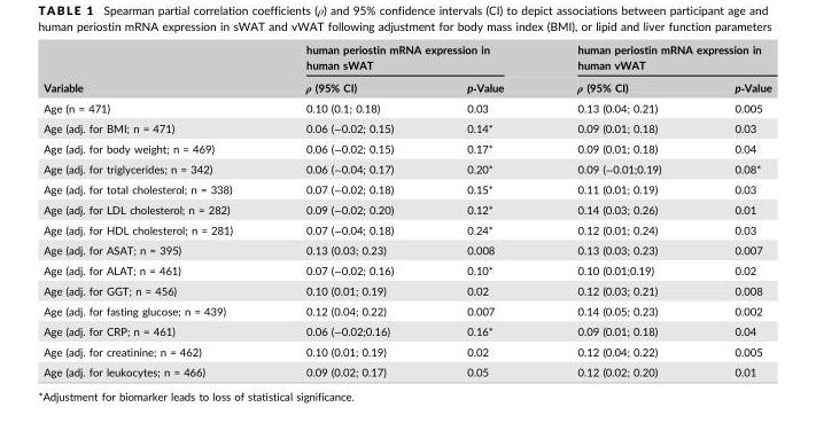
<table><thead><tr><td rowspan="2">Variable</td><td colspan="2">human periostin mRNA expression in human sWAT</td><td colspan="2">human periostin mRNA expression in human vWAT</td></tr><tr><td>ρ (95% CI)</td><td>p‐Value</td><td>ρ (95% CI)</td><td>p‐Value</td></tr></thead><tbody><tr><td>Age (n = 471)</td><td>0.10 (0.1; 0.18)</td><td>0.03</td><td>0.13 (0.04; 0.21)</td><td>0.005</td></tr><tr><td>Age (adj. for BMI; n = 471)</td><td>0.06 (−0.02; 0.15)</td><td>0.14*</td><td>0.09 (0.01; 0.18)</td><td>0.03</td></tr><tr><td>Age (adj. for body weight; n = 469)</td><td>0.06 (−0.02; 0.15)</td><td>0.17*</td><td>0.09 (0.01; 0.18)</td><td>0.04</td></tr><tr><td>Age (adj. for triglycerides; n = 342)</td><td>0.06 (−0.04; 0.17)</td><td>0.20*</td><td>0.09 (−0.01;0.19)</td><td>0.08*</td></tr><tr><td>Age (adj. for total cholesterol; n = 338)</td><td>0.07 (−0.02; 0.18)</td><td>0.15*</td><td>0.11 (0.01; 0.19)</td><td>0.03</td></tr><tr><td>Age (adj. for LDL cholesterol; n = 282)</td><td>0.09 (−0.02; 0.20)</td><td>0.12*</td><td>0.14 (0.03; 0.26)</td><td>0.01</td></tr><tr><td>Age (adj. for HDL cholesterol; n = 281)</td><td>0.07 (−0.04; 0.18)</td><td>0.24*</td><td>0.12 (0.01; 0.24)</td><td>0.03</td></tr><tr><td>Age (adj. for ASAT; n = 395)</td><td>0.13 (0.03; 0.23)</td><td>0.008</td><td>0.13 (0.03; 0.23)</td><td>0.007</td></tr><tr><td>Age (adj. for ALAT; n = 461)</td><td>0.07 (−0.02; 0.16)</td><td>0.10*</td><td>0.10 (0.01;0.19)</td><td>0.02</td></tr><tr><td>Age (adj. for GGT; n = 456)</td><td>0.10 (0.01; 0.19)</td><td>0.02</td><td>0.12 (0.03; 0.21)</td><td>0.008</td></tr><tr><td>Age (adj. for fasting glucose; n = 439)</td><td>0.12 (0.04; 0.22)</td><td>0.007</td><td>0.14 (0.05; 0.23)</td><td>0.002</td></tr><tr><td>Age (adj. for CRP; n = 461)</td><td>0.06 (−0.02;0.16)</td><td>0.16*</td><td>0.09 (0.01; 0.18)</td><td>0.04</td></tr><tr><td>Age (adj. for creatinine; n = 462)</td><td>0.10 (0.01; 0.19)</td><td>0.02</td><td>0.12 (0.04; 0.22)</td><td>0.005</td></tr><tr><td>Age (adj. for leukocytes; n = 466)</td><td>0.09 (0.02; 0.17)</td><td>0.05</td><td>0.12 (0.02; 0.20)</td><td>0.01</td></tr></tbody></table>